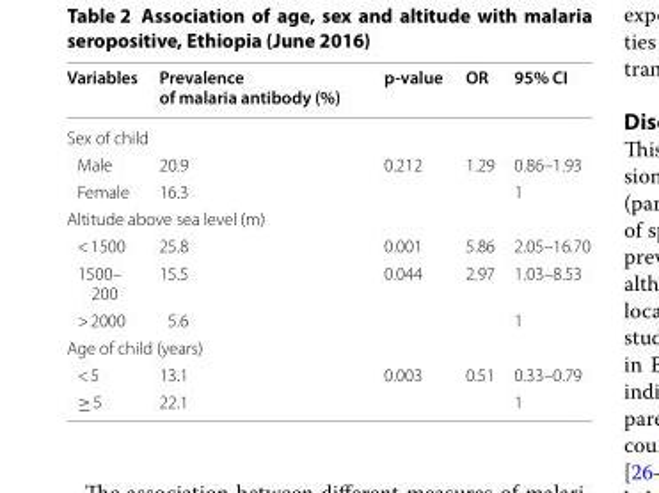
<table><thead><tr><td>Variables</td><td>Prevalence of malaria antibody (%)</td><td>p‑value</td><td>OR</td><td>95% CI</td></tr></thead><tbody><tr><td colspan="5">Sex of child</td></tr><tr><td>Male</td><td>20.9</td><td>0.212</td><td>1.29</td><td>0.86–1.93</td></tr><tr><td>Female</td><td>16.3</td><td></td><td></td><td>1</td></tr><tr><td colspan="5">Altitude above sea level (m)</td></tr><tr><td>&lt; 1500</td><td>25.8</td><td>0.001</td><td>5.86</td><td>2.05–16.70</td></tr><tr><td>1500– 200</td><td>15.5</td><td>0.044</td><td>2.97</td><td>1.03–8.53</td></tr><tr><td>&gt; 2000</td><td>5.6</td><td></td><td></td><td>1</td></tr><tr><td colspan="5">Age of child (years)</td></tr><tr><td>&lt; 5</td><td>13.1</td><td>0.003</td><td>0.51</td><td>0.33–0.79</td></tr><tr><td>≥ 5</td><td>22.1</td><td></td><td></td><td>1</td></tr></tbody></table>